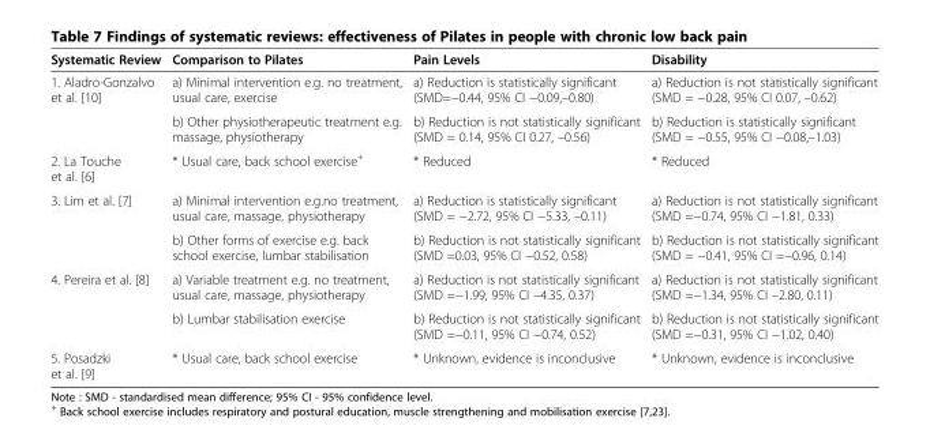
<table><thead><tr><td>Systematic Review</td><td>Comparison to Pilates</td><td>Pain Levels</td><td>Disability</td></tr></thead><tbody><tr><td rowspan="2">1. Aladro-Gonzalvo et al. [10]</td><td>a) Minimal intervention e.g. no treatment, usual care, exercise</td><td>a) Reduction is statistically significant (SMD=−0.44, 95% CI −0.09,–0.80)</td><td>a) Reduction is not statistically significant (SMD = −0.28, 95% CI 0.07, –0.62)</td></tr><tr><td>b) Other physiotherapeutic treatment e.g. massage, physiotherapy</td><td>b) Reduction is not statistically significant (SMD = 0.14, 95% CI 0.27, –0.56)</td><td>b) Reduction is statistically significant (SMD = −0.55, 95% CI −0.08,–1.03)</td></tr><tr><td>2. La Touche et al. [6]</td><td>* Usual care, back school exercise<sup>+</sup></td><td>* Reduced</td><td>* Reduced</td></tr><tr><td rowspan="2">3. Lim et al. [7]</td><td>a) Minimal intervention e.g.no treatment, usual care, massage, physiotherapy</td><td>a) Reduction is statistically significant (SMD = −2.72, 95% CI −5.33, –0.11)</td><td>a) Reduction is not statistically significant (SMD =−0.74, 95% CI −1.81, 0.33)</td></tr><tr><td>b) Other forms of exercise e.g. back school exercise, lumbar stabilisation</td><td>b) Reduction is not statistically significant (SMD =0.03, 95% CI −0.52, 0.58)</td><td>b) Reduction is not statistically significant (SMD = −0.41, 95% CI =−0.96, 0.14)</td></tr><tr><td rowspan="2">4. Pereira et al. [8]</td><td>a) Variable treatment e.g. no treatment, usual care, massage, physiotherapy</td><td>a) Reduction is not statistically significant (SMD =−1.99, 95% CI –4.35, 0.37)</td><td>a) Reduction is not statistically significant (SMD =−1.34, 95% CI –2.80, 0.11)</td></tr><tr><td>b) Lumbar stabilisation exercise</td><td>b) Reduction is not statistically significant (SMD =−0.11, 95% CI −0.74, 0.52)</td><td>b) Reduction is not statistically significant (SMD =−0.31, 95% CI −1.02, 0.40)</td></tr><tr><td>5. Posadzki et al. [9]</td><td>* Usual care, back school exercise</td><td>* Unknown, evidence is inconclusive</td><td>* Unknown, evidence is inconclusive</td></tr></tbody></table>